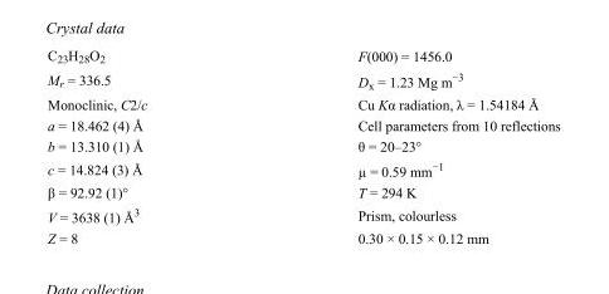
<table><tbody><tr><td>C<sub>23</sub>H<sub>28</sub>O<sub>2</sub></td><td>F(000) = 1456.0</td></tr><tr><td>M<sub>r</sub> = 336.5</td><td>D<sub>x</sub> = 1.23 Mg m<sup>−3</sup></td></tr><tr><td>Monoclinic, C2/c</td><td>Cu Kα radiation, λ = 1.54184 Å</td></tr><tr><td>a = 18.462 (4) Å</td><td>Cell parameters from 10 reflections</td></tr><tr><td>b = 13.310 (1) Å</td><td>θ = 20–23°</td></tr><tr><td>c = 14.824 (3) Å</td><td>µ = 0.59 mm<sup>−1</sup></td></tr><tr><td>β = 92.92 (1)°</td><td>T = 294 K</td></tr><tr><td>V = 3638 (1) Å<sup>3</sup></td><td>Prism, colourless</td></tr><tr><td>Z = 8</td><td>0.30 × 0.15 × 0.12 mm</td></tr></tbody></table>